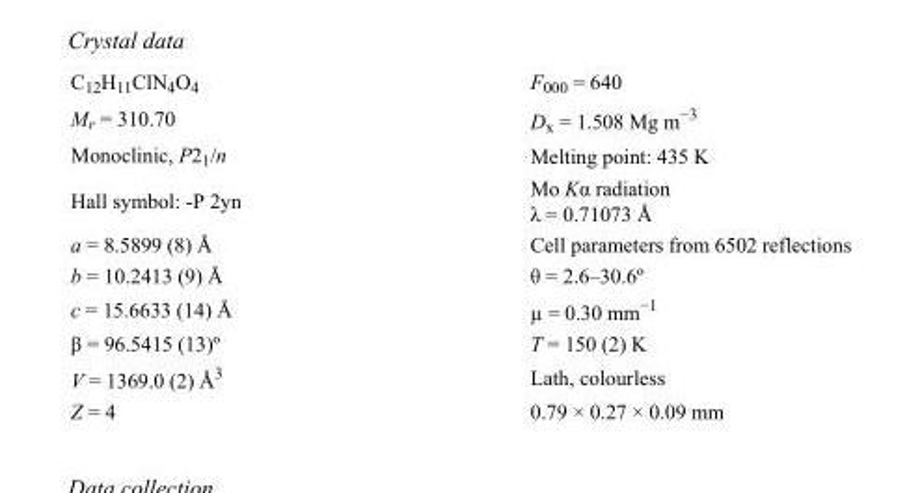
<table><tbody><tr><td>C<sub>12</sub>H<sub>11</sub>ClN<sub>4</sub>O<sub>4</sub></td><td>F000 = 640</td></tr><tr><td>M<sub>r</sub> = 310.70</td><td>D<sub>x</sub> = 1.508 Mg m<sup>−3</sup></td></tr><tr><td>Monoclinic, P2<sub>1</sub>/n</td><td>Melting point: 435 K</td></tr><tr><td>Hall symbol: -P 2yn</td><td>Mo Kα radiation λ = 0.71073 Å</td></tr><tr><td>a = 8.5899 (8) Å</td><td>Cell parameters from 6502 reflections</td></tr><tr><td>b = 10.2413 (9) Å</td><td>θ = 2.6–30.6º</td></tr><tr><td>c = 15.6633 (14) Å</td><td>µ = 0.30 mm<sup>−1</sup></td></tr><tr><td>β = 96.5415 (13)º</td><td>T = 150 (2) K</td></tr><tr><td>V = 1369.0 (2) Å<sup>3</sup></td><td>Lath, colourless</td></tr><tr><td>Z = 4</td><td>0.79 × 0.27 × 0.09 mm</td></tr></tbody></table>